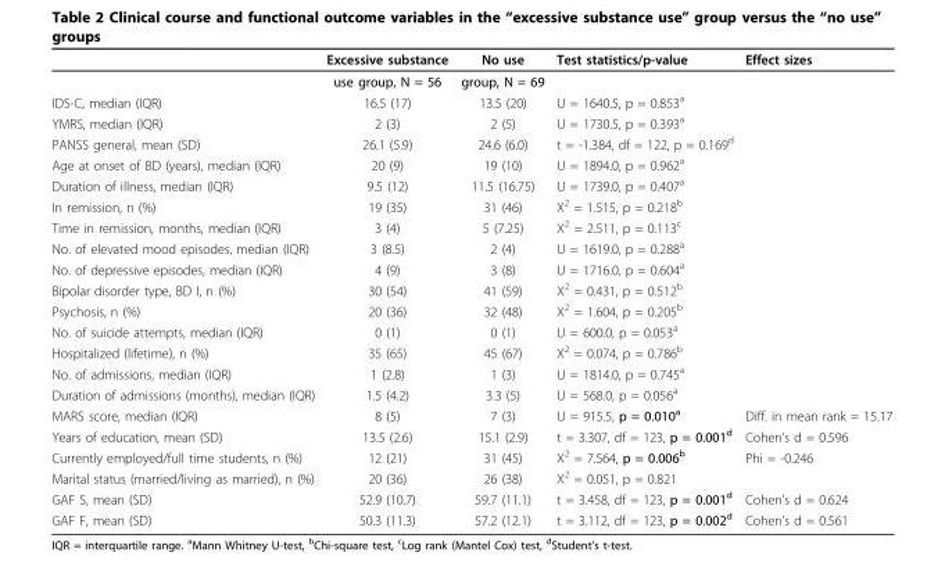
<table><thead><tr><td rowspan="2"></td><td rowspan="2">Excessive substance use group, N = 56</td><td rowspan="2">No use group, N = 69</td><td rowspan="2">Test statistics/p-value</td><td rowspan="2">Effect sizes</td></tr><tr></tr></thead><tbody><tr><td>IDS-C, median (IQR)</td><td>16.5 (17)</td><td>13.5 (20)</td><td>U = 1640.5, p = 0.853<sup>a</sup></td><td></td></tr><tr><td>YMRS, median (IQR)</td><td>2 (3)</td><td>2 (5)</td><td>U = 1730.5, p = 0.393<sup>a</sup></td><td></td></tr><tr><td>PANSS general, mean (SD)</td><td>26.1 (5.9)</td><td>24.6 (6.0)</td><td>t = -1.384, df = 122, p = 0.169<sup>d</sup></td><td></td></tr><tr><td>Age at onset of BD (years), median (IQR)</td><td>20 (9)</td><td>19 (10)</td><td>U = 1894.0, p = 0.962<sup>a</sup></td><td></td></tr><tr><td>Duration of illness, median (IQR)</td><td>9.5 (12)</td><td>11.5 (16.75)</td><td>U = 1739.0, p = 0.407<sup>a</sup></td><td></td></tr><tr><td>In remission, n (%)</td><td>19 (35)</td><td>31 (46)</td><td>X<sup>2</sup> = 1.515, p = 0.218<sup>b</sup></td><td></td></tr><tr><td>Time in remission, months, median (IQR)</td><td>3 (4)</td><td>5 (7.25)</td><td>X<sup>2</sup> = 2.511, p = 0.113<sup>c</sup></td><td></td></tr><tr><td>No. of elevated mood episodes, median (IQR)</td><td>3 (8.5)</td><td>2 (4)</td><td>U = 1619.0, p = 0.288<sup>a</sup></td><td></td></tr><tr><td>No. of depressive episodes, median (IQR)</td><td>4 (9)</td><td>3 (8)</td><td>U = 1716.0, p = 0.604<sup>a</sup></td><td></td></tr><tr><td>Bipolar disorder type, BD I, n (%)</td><td>30 (54)</td><td>41 (59)</td><td>X<sup>2</sup> = 0.431, p = 0.512<sup>b</sup></td><td></td></tr><tr><td>Psychosis, n (%)</td><td>20 (36)</td><td>32 (48)</td><td>X<sup>2</sup> = 1.604, p = 0.205<sup>b</sup></td><td></td></tr><tr><td>No. of suicide attempts, median (IQR)</td><td>0 (1)</td><td>0 (1)</td><td>U = 600.0, p = 0.053<sup>a</sup></td><td></td></tr><tr><td>Hospitalized (lifetime), n (%)</td><td>35 (65)</td><td>45 (67)</td><td>X<sup>2</sup> = 0.074, p = 0.786<sup>b</sup></td><td></td></tr><tr><td>No. of admissions, median (IQR)</td><td>1 (2.8)</td><td>1 (3)</td><td>U = 1814.0, p = 0.745<sup>a</sup></td><td></td></tr><tr><td>Duration of admissions (months), median (IQR)</td><td>1.5 (4.2)</td><td>3.3 (5)</td><td>U = 568.0, p = 0.056<sup>a</sup></td><td></td></tr><tr><td>MARS score, median (IQR)</td><td>8 (5)</td><td>7 (3)</td><td>U = 915.5, p = 0.010<sup>a</sup></td><td>Diff. in mean rank = 15.17</td></tr><tr><td>Years of education, mean (SD)</td><td>13.5 (2.6)</td><td>15.1 (2.9)</td><td>t = 3.307, df = 123, p = 0.001<sup>d</sup></td><td>Cohen’s d = 0.596</td></tr><tr><td>Currently employed/full time students, n (%)</td><td>12 (21)</td><td>31 (45)</td><td>X<sup>2</sup> = 7.564, p = 0.006<sup>b</sup></td><td>Phi = -0.246</td></tr><tr><td>Marital status (married/living as married), n (%)</td><td>20 (36)</td><td>26 (38)</td><td>X<sup>2</sup> = 0.051, p = 0.821</td><td></td></tr><tr><td>GAF S, mean (SD)</td><td>52.9 (10.7)</td><td>59.7 (11.1)</td><td>t = 3.458, df = 123, p = 0.001<sup>d</sup></td><td>Cohen’s d = 0.624</td></tr><tr><td>GAF F, mean (SD)</td><td>50.3 (11.3)</td><td>57.2 (12.1)</td><td>t = 3.112, df = 123, p = 0.002<sup>d</sup></td><td>Cohen’s d = 0.561</td></tr></tbody></table>